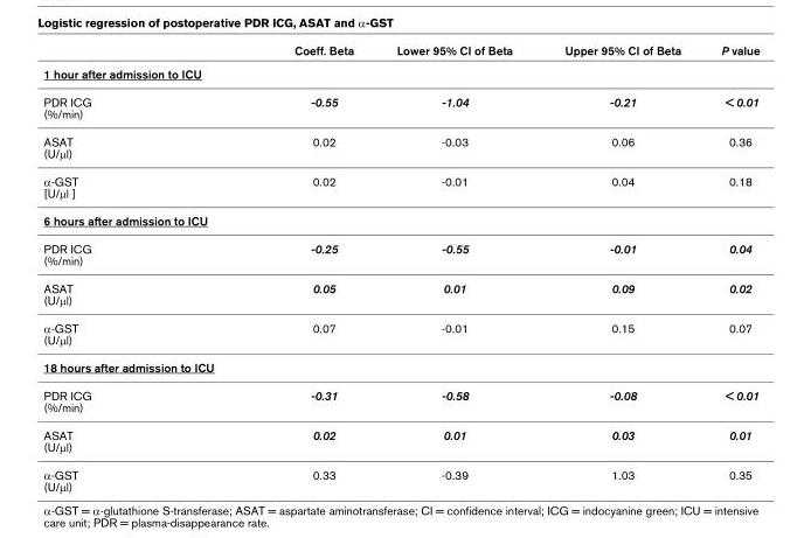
<table><thead><tr><td></td><td>Coeff. Beta</td><td>Lower 95% CI of Beta</td><td>Upper 95% CI of Beta</td><td>P value</td></tr></thead><tbody><tr><td colspan="5">1 hour after admission to ICU</td></tr><tr><td>PDR ICG (%/min)</td><td>-0.55</td><td>-1.04</td><td>-0.21</td><td>&lt; 0.01</td></tr><tr><td>ASAT (U/μl)</td><td>0.02</td><td>-0.03</td><td>0.06</td><td>0.36</td></tr><tr><td>α-GST [U/μl ]</td><td>0.02</td><td>-0.01</td><td>0.04</td><td>0.18</td></tr><tr><td colspan="5">6 hours after admission to ICU</td></tr><tr><td>PDR ICG (%/min)</td><td>-0.25</td><td>-0.55</td><td>-0.01</td><td>0.04</td></tr><tr><td>ASAT (U/μl)</td><td>0.05</td><td>0.01</td><td>0.09</td><td>0.02</td></tr><tr><td>α-GST (U/μl)</td><td>0.07</td><td>-0.01</td><td>0.15</td><td>0.07</td></tr><tr><td colspan="5">18 hours after admission to ICU</td></tr><tr><td>PDR ICG (%/min)</td><td>-0.31</td><td>-0.58</td><td>-0.08</td><td>&lt; 0.01</td></tr><tr><td>ASAT (U/μl)</td><td>0.02</td><td>0.01</td><td>0.03</td><td>0.01</td></tr><tr><td>α-GST (U/μl)</td><td>0.33</td><td>-0.39</td><td>1.03</td><td>0.35</td></tr></tbody></table>